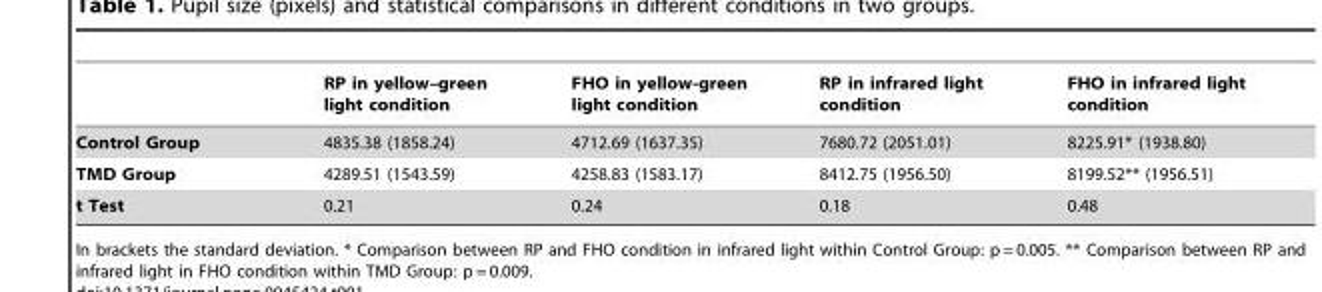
<table><thead><tr><td></td><td>RP in yellow–green light condition</td><td>FHO in yellow-green light condition</td><td>RP in infrared light condition</td><td>FHO in infrared light condition</td></tr></thead><tbody><tr><td>Control Group</td><td>4835.38 (1858.24)</td><td>4712.69 (1637.35)</td><td>7680.72 (2051.01)</td><td>8225.91* (1938.80)</td></tr><tr><td>TMD Group</td><td>4289.51 (1543.59)</td><td>4258.83 (1583.17)</td><td>8412.75 (1956.50)</td><td>8199.52** (1956.51)</td></tr><tr><td>t Test</td><td>0.21</td><td>0.24</td><td>0.18</td><td>0.48</td></tr></tbody></table>